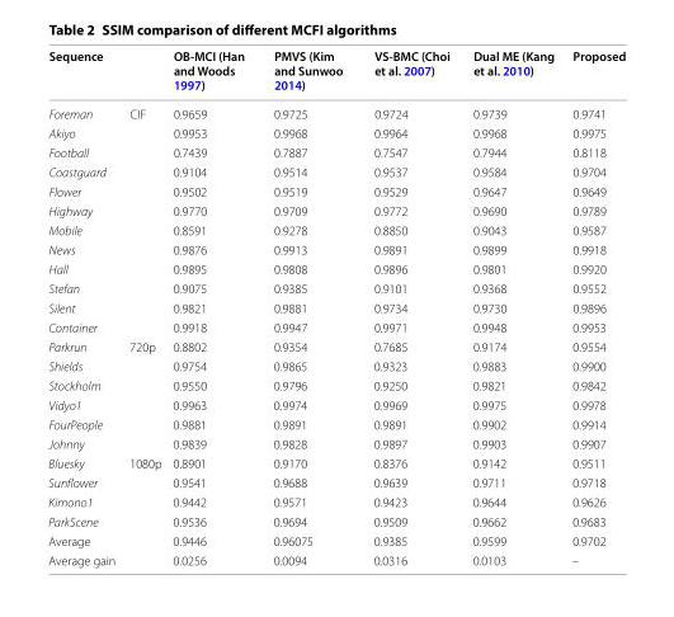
<table><thead><tr><td>Sequence</td><td></td><td>OB‑MCI (Han and Woods 1997)</td><td>PMVS (Kim and Sunwoo 2014)</td><td>VS‑BMC (Choi et al. 2007)</td><td>Dual ME (Kang et al. 2010)</td><td>Proposed</td></tr></thead><tbody><tr><td>Foreman</td><td rowspan="12">CIF</td><td>0.9659</td><td>0.9725</td><td>0.9724</td><td>0.9739</td><td>0.9741</td></tr><tr><td>Akiyo</td><td>0.9953</td><td>0.9968</td><td>0.9964</td><td>0.9968</td><td>0.9975</td></tr><tr><td>Football</td><td>0.7439</td><td>0.7887</td><td>0.7547</td><td>0.7944</td><td>0.8118</td></tr><tr><td>Coastguard</td><td>0.9104</td><td>0.9514</td><td>0.9537</td><td>0.9584</td><td>0.9704</td></tr><tr><td>Flower</td><td>0.9502</td><td>0.9519</td><td>0.9529</td><td>0.9647</td><td>0.9649</td></tr><tr><td>Highway</td><td>0.9770</td><td>0.9709</td><td>0.9772</td><td>0.9690</td><td>0.9789</td></tr><tr><td>Mobile</td><td>0.8591</td><td>0.9278</td><td>0.8850</td><td>0.9043</td><td>0.9587</td></tr><tr><td>News</td><td>0.9876</td><td>0.9913</td><td>0.9891</td><td>0.9899</td><td>0.9918</td></tr><tr><td>Hall</td><td>0.9895</td><td>0.9808</td><td>0.9896</td><td>0.9801</td><td>0.9920</td></tr><tr><td>Stefan</td><td>0.9075</td><td>0.9385</td><td>0.9101</td><td>0.9368</td><td>0.9552</td></tr><tr><td>Silent</td><td>0.9821</td><td>0.9881</td><td>0.9734</td><td>0.9730</td><td>0.9896</td></tr><tr><td>Container</td><td>0.9918</td><td>0.9947</td><td>0.9971</td><td>0.9948</td><td>0.9953</td></tr><tr><td>Parkrun</td><td rowspan="6">720p</td><td>0.8802</td><td>0.9354</td><td>0.7685</td><td>0.9174</td><td>0.9554</td></tr><tr><td>Shields</td><td>0.9754</td><td>0.9865</td><td>0.9323</td><td>0.9883</td><td>0.9900</td></tr><tr><td>Stockholm</td><td>0.9550</td><td>0.9796</td><td>0.9250</td><td>0.9821</td><td>0.9842</td></tr><tr><td>Vidyo1</td><td>0.9963</td><td>0.9974</td><td>0.9969</td><td>0.9975</td><td>0.9978</td></tr><tr><td>FourPeople</td><td>0.9881</td><td>0.9891</td><td>0.9891</td><td>0.9902</td><td>0.9914</td></tr><tr><td>Johnny</td><td>0.9839</td><td>0.9828</td><td>0.9897</td><td>0.9903</td><td>0.9907</td></tr><tr><td>Bluesky</td><td rowspan="4">1080p</td><td>0.8901</td><td>0.9170</td><td>0.8376</td><td>0.9142</td><td>0.9511</td></tr><tr><td>Sunflower</td><td>0.9541</td><td>0.9688</td><td>0.9639</td><td>0.9711</td><td>0.9718</td></tr><tr><td>Kimono1</td><td>0.9442</td><td>0.9571</td><td>0.9423</td><td>0.9644</td><td>0.9626</td></tr><tr><td>ParkScene</td><td>0.9536</td><td>0.9694</td><td>0.9509</td><td>0.9662</td><td>0.9683</td></tr><tr><td>Average</td><td></td><td>0.9446</td><td>0.96075</td><td>0.9385</td><td>0.9599</td><td>0.9702</td></tr><tr><td>Average gain</td><td></td><td>0.0256</td><td>0.0094</td><td>0.0316</td><td>0.0103</td><td>–</td></tr></tbody></table>